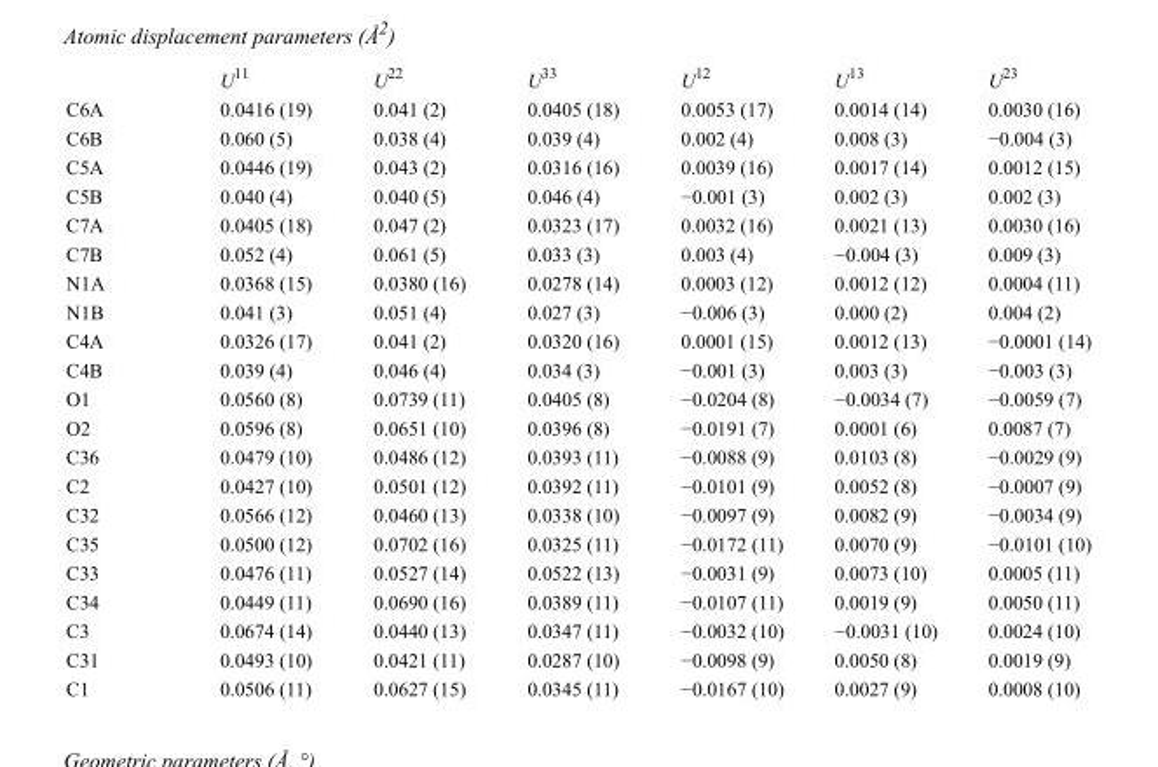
<table><thead><tr><td></td><td>U<sup>11</sup></td><td>U<sup>22</sup></td><td>U<sup>33</sup></td><td>U<sup>12</sup></td><td>U<sup>13</sup></td><td>U<sup>23</sup></td></tr></thead><tbody><tr><td>C6A</td><td>0.0416 (19)</td><td>0.041 (2)</td><td>0.0405 (18)</td><td>0.0053 (17)</td><td>0.0014 (14)</td><td>0.0030 (16)</td></tr><tr><td>C6B</td><td>0.060 (5)</td><td>0.038 (4)</td><td>0.039 (4)</td><td>0.002 (4)</td><td>0.008 (3)</td><td>−0.004 (3)</td></tr><tr><td>C5A</td><td>0.0446 (19)</td><td>0.043 (2)</td><td>0.0316 (16)</td><td>0.0039 (16)</td><td>0.0017 (14)</td><td>0.0012 (15)</td></tr><tr><td>C5B</td><td>0.040 (4)</td><td>0.040 (5)</td><td>0.046 (4)</td><td>−0.001 (3)</td><td>0.002 (3)</td><td>0.002 (3)</td></tr><tr><td>C7A</td><td>0.0405 (18)</td><td>0.047 (2)</td><td>0.0323 (17)</td><td>0.0032 (16)</td><td>0.0021 (13)</td><td>0.0030 (16)</td></tr><tr><td>C7B</td><td>0.052 (4)</td><td>0.061 (5)</td><td>0.033 (3)</td><td>0.003 (4)</td><td>−0.004 (3)</td><td>0.009 (3)</td></tr><tr><td>N1A</td><td>0.0368 (15)</td><td>0.0380 (16)</td><td>0.0278 (14)</td><td>0.0003 (12)</td><td>0.0012 (12)</td><td>0.0004 (11)</td></tr><tr><td>N1B</td><td>0.041 (3)</td><td>0.051 (4)</td><td>0.027 (3)</td><td>−0.006 (3)</td><td>0.000 (2)</td><td>0.004 (2)</td></tr><tr><td>C4A</td><td>0.0326 (17)</td><td>0.041 (2)</td><td>0.0320 (16)</td><td>0.0001 (15)</td><td>0.0012 (13)</td><td>−0.0001 (14)</td></tr><tr><td>C4B</td><td>0.039 (4)</td><td>0.046 (4)</td><td>0.034 (3)</td><td>−0.001 (3)</td><td>0.003 (3)</td><td>−0.003 (3)</td></tr><tr><td>O1</td><td>0.0560 (8)</td><td>0.0739 (11)</td><td>0.0405 (8)</td><td>−0.0204 (8)</td><td>−0.0034 (7)</td><td>−0.0059 (7)</td></tr><tr><td>O2</td><td>0.0596 (8)</td><td>0.0651 (10)</td><td>0.0396 (8)</td><td>−0.0191 (7)</td><td>0.0001 (6)</td><td>0.0087 (7)</td></tr><tr><td>C36</td><td>0.0479 (10)</td><td>0.0486 (12)</td><td>0.0393 (11)</td><td>−0.0088 (9)</td><td>0.0103 (8)</td><td>−0.0029 (9)</td></tr><tr><td>C2</td><td>0.0427 (10)</td><td>0.0501 (12)</td><td>0.0392 (11)</td><td>−0.0101 (9)</td><td>0.0052 (8)</td><td>−0.0007 (9)</td></tr><tr><td>C32</td><td>0.0566 (12)</td><td>0.0460 (13)</td><td>0.0338 (10)</td><td>−0.0097 (9)</td><td>0.0082 (9)</td><td>−0.0034 (9)</td></tr><tr><td>C35</td><td>0.0500 (12)</td><td>0.0702 (16)</td><td>0.0325 (11)</td><td>−0.0172 (11)</td><td>0.0070 (9)</td><td>−0.0101 (10)</td></tr><tr><td>C33</td><td>0.0476 (11)</td><td>0.0527 (14)</td><td>0.0522 (13)</td><td>−0.0031 (9)</td><td>0.0073 (10)</td><td>0.0005 (11)</td></tr><tr><td>C34</td><td>0.0449 (11)</td><td>0.0690 (16)</td><td>0.0389 (11)</td><td>−0.0107 (11)</td><td>0.0019 (9)</td><td>0.0050 (11)</td></tr><tr><td>C3</td><td>0.0674 (14)</td><td>0.0440 (13)</td><td>0.0347 (11)</td><td>−0.0032 (10)</td><td>−0.0031 (10)</td><td>0.0024 (10)</td></tr><tr><td>C31</td><td>0.0493 (10)</td><td>0.0421 (11)</td><td>0.0287 (10)</td><td>−0.0098 (9)</td><td>0.0050 (8)</td><td>0.0019 (9)</td></tr><tr><td>C1</td><td>0.0506 (11)</td><td>0.0627 (15)</td><td>0.0345 (11)</td><td>−0.0167 (10)</td><td>0.0027 (9)</td><td>0.0008 (10)</td></tr></tbody></table>